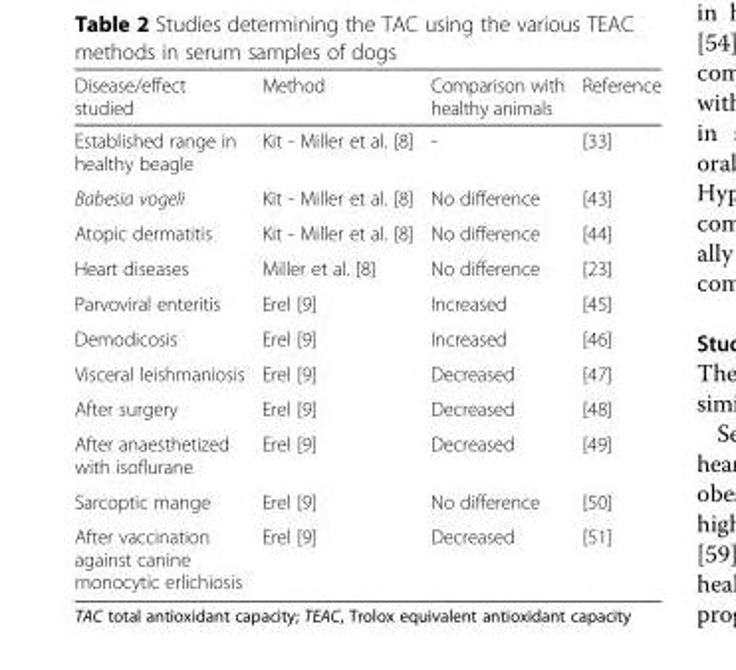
<table><thead><tr><td>Disease/effect studied</td><td>Method</td><td>Comparison with healthy animals</td><td>Reference</td></tr></thead><tbody><tr><td>Established range in healthy beagle</td><td>Kit - Miller et al. [8]</td><td>-</td><td>[33]</td></tr><tr><td>Babesia vogeli</td><td>Kit - Miller et al. [8]</td><td>No difference</td><td>[43]</td></tr><tr><td>Atopic dermatitis</td><td>Kit - Miller et al. [8]</td><td>No difference</td><td>[44]</td></tr><tr><td>Heart diseases</td><td>Miller et al. [8]</td><td>No difference</td><td>[23]</td></tr><tr><td>Parvoviral enteritis</td><td>Erel [9]</td><td>Increased</td><td>[45]</td></tr><tr><td>Demodicosis</td><td>Erel [9]</td><td>Increased</td><td>[46]</td></tr><tr><td>Visceral leishmaniosis</td><td>Erel [9]</td><td>Decreased</td><td>[47]</td></tr><tr><td>After surgery</td><td>Erel [9]</td><td>Decreased</td><td>[48]</td></tr><tr><td>After anaesthetized with isoflurane</td><td>Erel [9]</td><td>Decreased</td><td>[49]</td></tr><tr><td>Sarcoptic mange</td><td>Erel [9]</td><td>No difference</td><td>[50]</td></tr><tr><td>After vaccination against canine monocytic erlichiosis</td><td>Erel [9]</td><td>Decreased</td><td>[51]</td></tr></tbody></table>